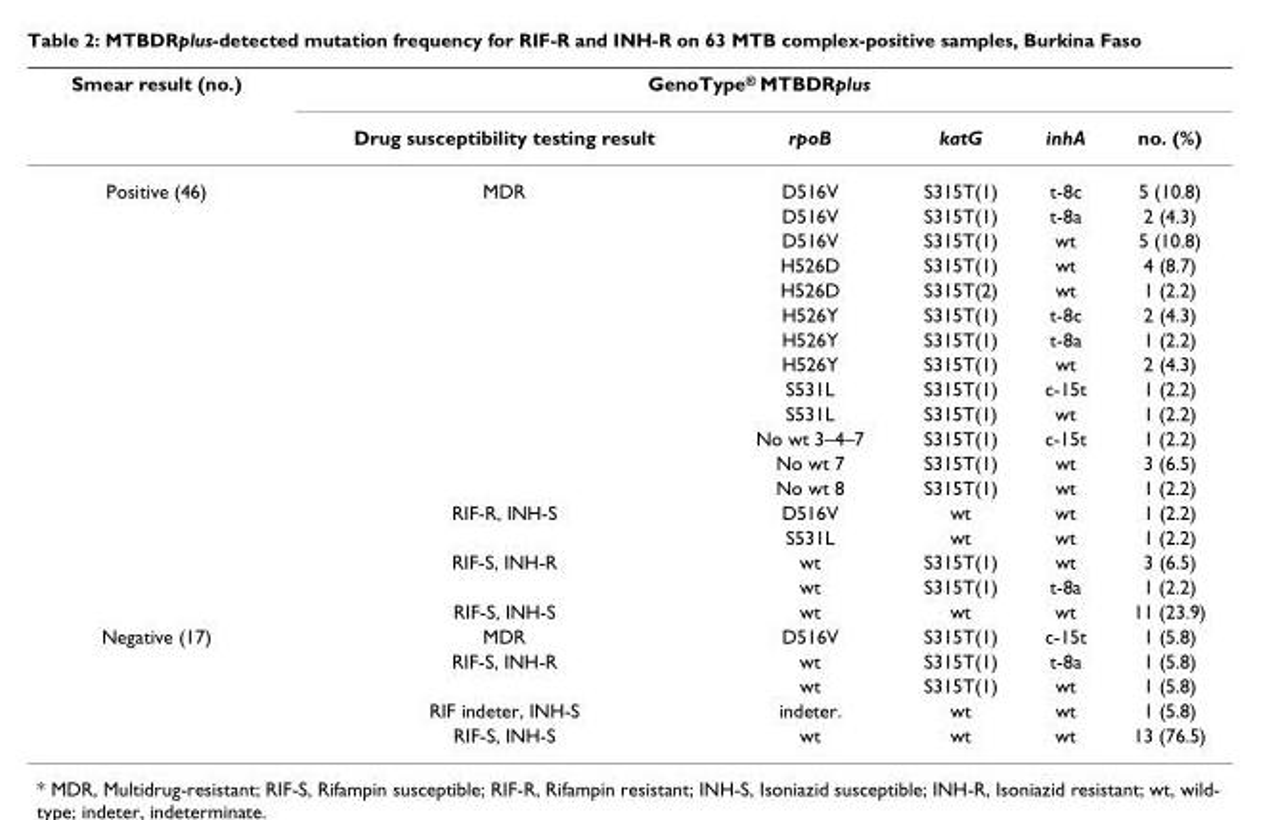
<table><thead><tr><td rowspan="2">Smear result (no.)</td><td colspan="5">GenoType<sup>®</sup> MTBDRplus</td></tr><tr><td>Drug susceptibility testing result</td><td>rpoB</td><td>katG</td><td>inhA</td><td>no. (%)</td></tr></thead><tbody><tr><td rowspan="18">Positive (46)</td><td>MDR</td><td>D516V</td><td>S315T(1)</td><td>t-8c</td><td>5 (10.8)</td></tr><tr><td></td><td>D516V</td><td>S315T(1)</td><td>t-8a</td><td>2 (4.3)</td></tr><tr><td></td><td>D516V</td><td>S315T(1)</td><td>wt</td><td>5 (10.8)</td></tr><tr><td></td><td>H526D</td><td>S315T(1)</td><td>wt</td><td>4 (8.7)</td></tr><tr><td></td><td>H526D</td><td>S315T(2)</td><td>wt</td><td>1 (2.2)</td></tr><tr><td></td><td>H526Y</td><td>S315T(1)</td><td>t-8c</td><td>2 (4.3)</td></tr><tr><td></td><td>H526Y</td><td>S315T(1)</td><td>t-8a</td><td>1 (2.2)</td></tr><tr><td></td><td>H526Y</td><td>S315T(1)</td><td>wt</td><td>2 (4.3)</td></tr><tr><td></td><td>S531L</td><td>S315T(1)</td><td>c-15t</td><td>1 (2.2)</td></tr><tr><td></td><td>S531L</td><td>S315T(1)</td><td>wt</td><td>1 (2.2)</td></tr><tr><td></td><td>No wt 3–4–7</td><td>S315T(1)</td><td>c-15t</td><td>1 (2.2)</td></tr><tr><td></td><td>No wt 7</td><td>S315T(1)</td><td>wt</td><td>3 (6.5)</td></tr><tr><td></td><td>No wt 8</td><td>S315T(1)</td><td>wt</td><td>1 (2.2)</td></tr><tr><td>RIF-R, INH-S</td><td>D516V</td><td>wt</td><td>wt</td><td>1 (2.2)</td></tr><tr><td></td><td>S531L</td><td>wt</td><td>wt</td><td>1 (2.2)</td></tr><tr><td>RIF-S, INH-R</td><td>wt</td><td>S315T(1)</td><td>wt</td><td>3 (6.5)</td></tr><tr><td></td><td>wt</td><td>S315T(1)</td><td>t-8a</td><td>1 (2.2)</td></tr><tr><td>RIF-S, INH-S</td><td>wt</td><td>wt</td><td>wt</td><td>11 (23.9)</td></tr><tr><td rowspan="5">Negative (17)</td><td>MDR</td><td>D516V</td><td>S315T(1)</td><td>c-15t</td><td>1 (5.8)</td></tr><tr><td>RIF-S, INH-R</td><td>wt</td><td>S315T(1)</td><td>t-8a</td><td>1 (5.8)</td></tr><tr><td></td><td>wt</td><td>S315T(1)</td><td>wt</td><td>1 (5.8)</td></tr><tr><td>RIF indeter, INH-S</td><td>indeter.</td><td>wt</td><td>wt</td><td>1 (5.8)</td></tr><tr><td>RIF-S, INH-S</td><td>wt</td><td>wt</td><td>wt</td><td>13 (76.5)</td></tr></tbody></table>